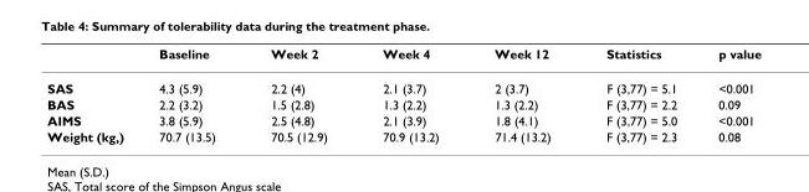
<table><thead><tr><td></td><td>Baseline</td><td>Week 2</td><td>Week 4</td><td>Week 12</td><td>Statistics</td><td>p value</td></tr></thead><tbody><tr><td>SAS</td><td>4.3 (5.9)</td><td>2.2 (4)</td><td>2.1 (3.7)</td><td>2 (3.7)</td><td>F (3,77) = 5.1</td><td>&lt;0.001</td></tr><tr><td>BAS</td><td>2.2 (3.2)</td><td>1.5 (2.8)</td><td>1.3 (2.2)</td><td>1.3 (2.2)</td><td>F (3,77) = 2.2</td><td>0.09</td></tr><tr><td>AIMS</td><td>3.8 (5.9)</td><td>2.5 (4.8)</td><td>2.1 (3.9)</td><td>1.8 (4.1)</td><td>F (3,77) = 5.0</td><td>&lt;0.001</td></tr><tr><td>Weight (kg,)</td><td>70.7 (13.5)</td><td>70.5 (12.9)</td><td>70.9 (13.2)</td><td>71.4 (13.2)</td><td>F (3,77) = 2.3</td><td>0.08</td></tr></tbody></table>